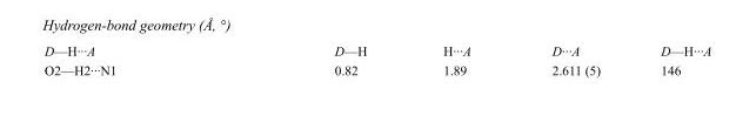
<table><tbody><tr><td>D—H···A</td><td>D—H</td><td>H···A</td><td>D···A</td><td>D—H···A</td></tr><tr><td>O2—H2···N1</td><td>0.82</td><td>1.89</td><td>2.611 (5)</td><td>146</td></tr></tbody></table>